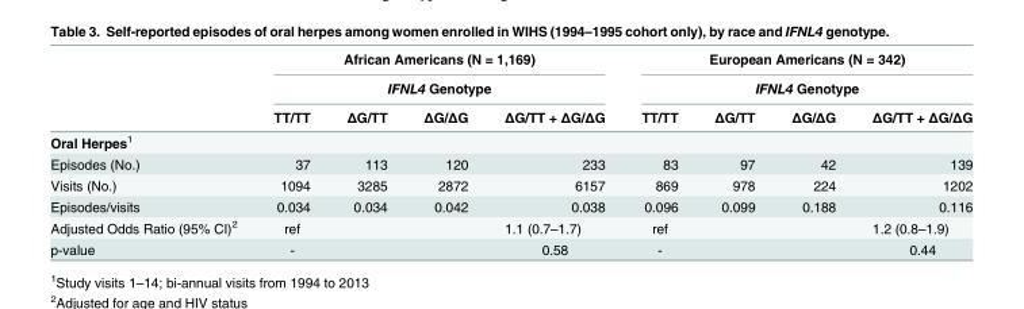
<table><thead><tr><td rowspan="3"></td><td rowspan="2" colspan="4">African Americans (N = 1,169) IFNL4 Genotype</td><td rowspan="2" colspan="4">European Americans (N = 342) IFNL4 Genotype</td></tr><tr></tr><tr><td>TT/TT</td><td>ΔG/TT</td><td>ΔG/ΔG</td><td>ΔG/TT + ΔG/ΔG</td><td>TT/TT</td><td>ΔG/TT</td><td>ΔG/ΔG</td><td>ΔG/TT + ΔG/ΔG</td></tr></thead><tbody><tr><td colspan="9">Oral Herpes<sup>1</sup></td></tr><tr><td>Episodes (No.)</td><td>37</td><td>113</td><td>120</td><td>233</td><td>83</td><td>97</td><td>42</td><td>139</td></tr><tr><td>Visits (No.)</td><td>1094</td><td>3285</td><td>2872</td><td>6157</td><td>869</td><td>978</td><td>224</td><td>1202</td></tr><tr><td>Episodes/visits</td><td>0.034</td><td>0.034</td><td>0.042</td><td>0.038</td><td>0.096</td><td>0.099</td><td>0.188</td><td>0.116</td></tr><tr><td>Adjusted Odds Ratio (95% CI)<sup>2</sup></td><td>ref</td><td></td><td></td><td>1.1 (0.7–1.7)</td><td>ref</td><td></td><td></td><td>1.2 (0.8–1.9)</td></tr><tr><td>p-value</td><td>-</td><td></td><td></td><td>0.58</td><td>-</td><td></td><td></td><td>0.44</td></tr></tbody></table>